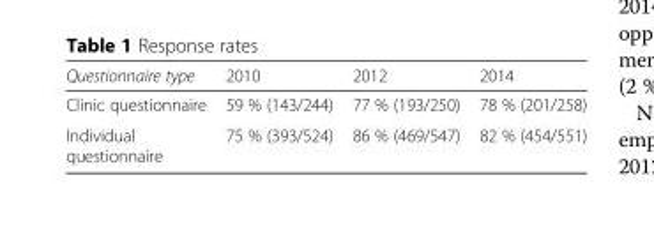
<table><thead><tr><td>Questionnaire type</td><td>2010</td><td>2012</td><td>2014</td></tr></thead><tbody><tr><td>Clinic questionnaire</td><td>59 % (143/244)</td><td>77 % (193/250)</td><td>78 % (201/258)</td></tr><tr><td>Individual questionnaire</td><td>75 % (393/524)</td><td>86 % (469/547)</td><td>82 % (454/551)</td></tr></tbody></table>